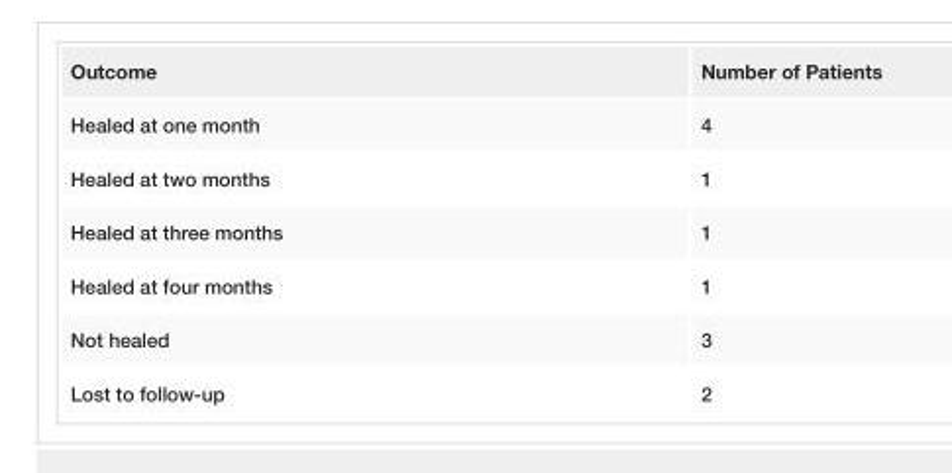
<table><tbody><tr><td>Outcome</td><td>Number of Patients</td></tr><tr><td>Healed at one month</td><td>4</td></tr><tr><td>Healed at two months</td><td>1</td></tr><tr><td>Healed at three months</td><td>1</td></tr><tr><td>Healed at four months</td><td>1</td></tr><tr><td>Not healed</td><td>3</td></tr><tr><td>Lost to follow-up</td><td>2</td></tr></tbody></table>